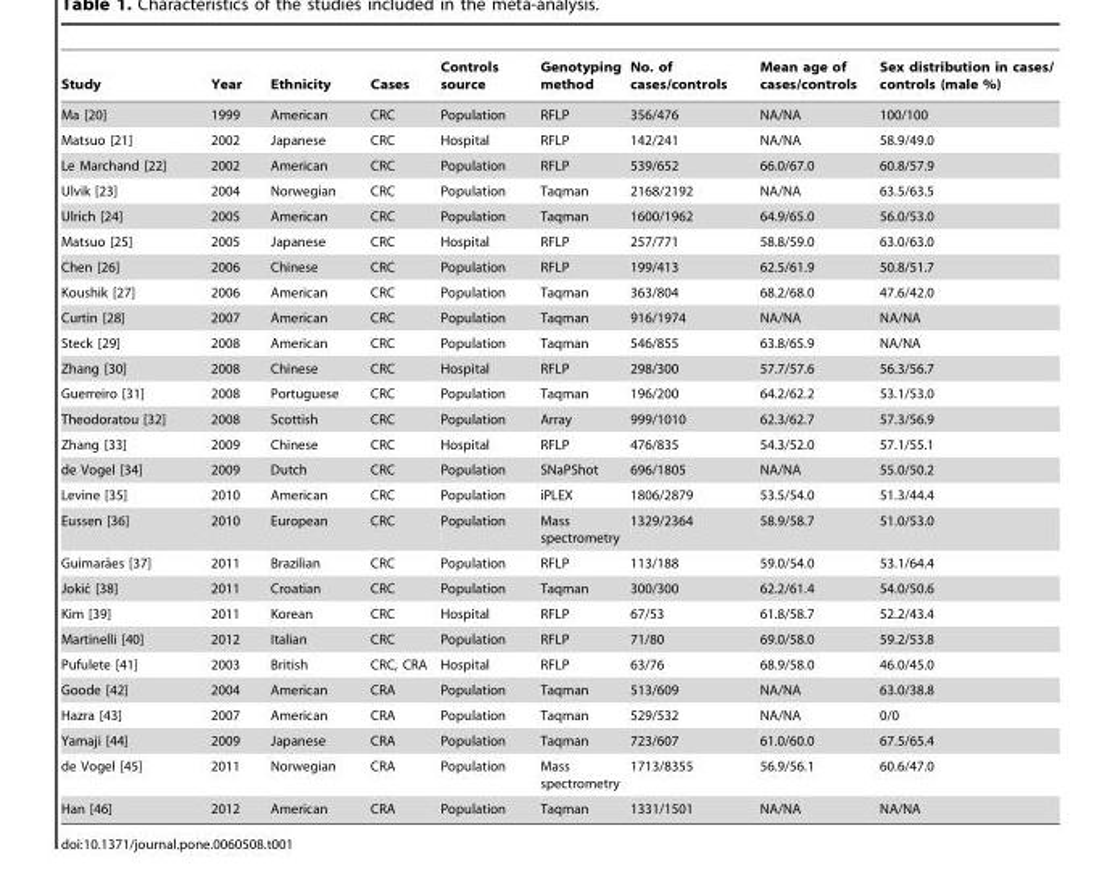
<table><thead><tr><td>Study</td><td>Year</td><td>Ethnicity</td><td>Cases</td><td>Controls source</td><td>Genotyping method</td><td>No. of cases/controls</td><td>Mean age of cases/controls</td><td>Sex distribution in cases/ controls (male %)</td></tr></thead><tbody><tr><td>Ma [20]</td><td>1999</td><td>American</td><td>CRC</td><td>Population</td><td>RFLP</td><td>356/476</td><td>NA/NA</td><td>100/100</td></tr><tr><td>Matsuo [21]</td><td>2002</td><td>Japanese</td><td>CRC</td><td>Hospital</td><td>RFLP</td><td>142/241</td><td>NA/NA</td><td>58.9/49.0</td></tr><tr><td>Le Marchand [22]</td><td>2002</td><td>American</td><td>CRC</td><td>Population</td><td>RFLP</td><td>539/652</td><td>66.0/67.0</td><td>60.8/57.9</td></tr><tr><td>Ulvik [23]</td><td>2004</td><td>Norwegian</td><td>CRC</td><td>Population</td><td>Taqman</td><td>2168/2192</td><td>NA/NA</td><td>63.5/63.5</td></tr><tr><td>Ulrich [24]</td><td>2005</td><td>American</td><td>CRC</td><td>Population</td><td>Taqman</td><td>1600/1962</td><td>64.9/65.0</td><td>56.0/53.0</td></tr><tr><td>Matsuo [25]</td><td>2005</td><td>Japanese</td><td>CRC</td><td>Hospital</td><td>RFLP</td><td>257/771</td><td>58.8/59.0</td><td>63.0/63.0</td></tr><tr><td>Chen [26]</td><td>2006</td><td>Chinese</td><td>CRC</td><td>Population</td><td>RFLP</td><td>199/413</td><td>62.5/61.9</td><td>50.8/51.7</td></tr><tr><td>Koushik [27]</td><td>2006</td><td>American</td><td>CRC</td><td>Population</td><td>Taqman</td><td>363/804</td><td>68.2/68.0</td><td>47.6/42.0</td></tr><tr><td>Curtin [28]</td><td>2007</td><td>American</td><td>CRC</td><td>Population</td><td>Taqman</td><td>916/1974</td><td>NA/NA</td><td>NA/NA</td></tr><tr><td>Steck [29]</td><td>2008</td><td>American</td><td>CRC</td><td>Population</td><td>Taqman</td><td>546/855</td><td>63.8/65.9</td><td>NA/NA</td></tr><tr><td>Zhang [30]</td><td>2008</td><td>Chinese</td><td>CRC</td><td>Hospital</td><td>RFLP</td><td>298/300</td><td>57.7/57.6</td><td>56.3/56.7</td></tr><tr><td>Guerreiro [31]</td><td>2008</td><td>Portuguese</td><td>CRC</td><td>Population</td><td>Taqman</td><td>196/200</td><td>64.2/62.2</td><td>53.1/53.0</td></tr><tr><td>Theodoratou [32]</td><td>2008</td><td>Scottish</td><td>CRC</td><td>Population</td><td>Array</td><td>999/1010</td><td>62.3/62.7</td><td>57.3/56.9</td></tr><tr><td>Zhang [33]</td><td>2009</td><td>Chinese</td><td>CRC</td><td>Hospital</td><td>RFLP</td><td>476/835</td><td>54.3/52.0</td><td>57.1/55.1</td></tr><tr><td>de Vogel [34]</td><td>2009</td><td>Dutch</td><td>CRC</td><td>Population</td><td>SNaPShot</td><td>696/1805</td><td>NA/NA</td><td>55.0/50.2</td></tr><tr><td>Levine [35]</td><td>2010</td><td>American</td><td>CRC</td><td>Population</td><td>iPLEX</td><td>1806/2879</td><td>53.5/54.0</td><td>51.3/44.4</td></tr><tr><td>Eussen [36]</td><td>2010</td><td>European</td><td>CRC</td><td>Population</td><td>Mass spectrometry</td><td>1329/2364</td><td>58.9/58.7</td><td>51.0/53.0</td></tr><tr><td>Guimara˜es [37]</td><td>2011</td><td>Brazilian</td><td>CRC</td><td>Population</td><td>RFLP</td><td>113/188</td><td>59.0/54.0</td><td>53.1/64.4</td></tr><tr><td>Jokic´ [38]</td><td>2011</td><td>Croatian</td><td>CRC</td><td>Population</td><td>Taqman</td><td>300/300</td><td>62.2/61.4</td><td>54.0/50.6</td></tr><tr><td>Kim [39]</td><td>2011</td><td>Korean</td><td>CRC</td><td>Hospital</td><td>RFLP</td><td>67/53</td><td>61.8/58.7</td><td>52.2/43.4</td></tr><tr><td>Martinelli [40]</td><td>2012</td><td>Italian</td><td>CRC</td><td>Population</td><td>RFLP</td><td>71/80</td><td>69.0/58.0</td><td>59.2/53.8</td></tr><tr><td>Pufulete [41]</td><td>2003</td><td>British</td><td>CRC, CRA</td><td>Hospital</td><td>RFLP</td><td>63/76</td><td>68.9/58.0</td><td>46.0/45.0</td></tr><tr><td>Goode [42]</td><td>2004</td><td>American</td><td>CRA</td><td>Population</td><td>Taqman</td><td>513/609</td><td>NA/NA</td><td>63.0/38.8</td></tr><tr><td>Hazra [43]</td><td>2007</td><td>American</td><td>CRA</td><td>Population</td><td>Taqman</td><td>529/532</td><td>NA/NA</td><td>0/0</td></tr><tr><td>Yamaji [44]</td><td>2009</td><td>Japanese</td><td>CRA</td><td>Population</td><td>Taqman</td><td>723/607</td><td>61.0/60.0</td><td>67.5/65.4</td></tr><tr><td>de Vogel [45]</td><td>2011</td><td>Norwegian</td><td>CRA</td><td>Population</td><td>Mass spectrometry</td><td>1713/8355</td><td>56.9/56.1</td><td>60.6/47.0</td></tr><tr><td>Han [46]</td><td>2012</td><td>American</td><td>CRA</td><td>Population</td><td>Taqman</td><td>1331/1501</td><td>NA/NA</td><td>NA/NA</td></tr></tbody></table>